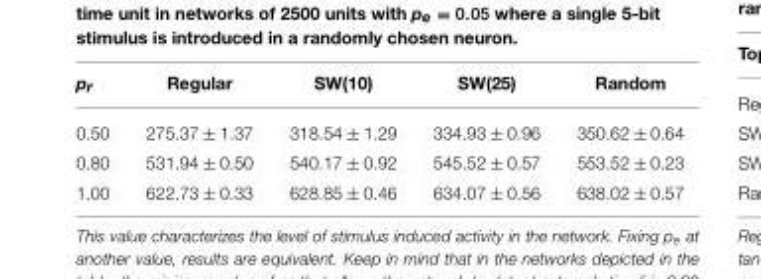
<table><thead><tr><td>p<sub>r</sub></td><td>Regular</td><td>SW(10)</td><td>SW(25)</td><td>Random</td></tr></thead><tbody><tr><td>0.50</td><td>275.37 ± 1.37</td><td>318.54 ± 1.29</td><td>334.93 ± 0.96</td><td>350.62 ± 0.64</td></tr><tr><td>0.80</td><td>531.94 ± 0.50</td><td>540.17 ± 0.92</td><td>545.52 ± 0.57</td><td>553.52 ± 0.23</td></tr><tr><td>1.00</td><td>622.73 ± 0.33</td><td>628.85 ± 0.46</td><td>634.07 ± 0.56</td><td>638.02 ± 0.57</td></tr></tbody></table>